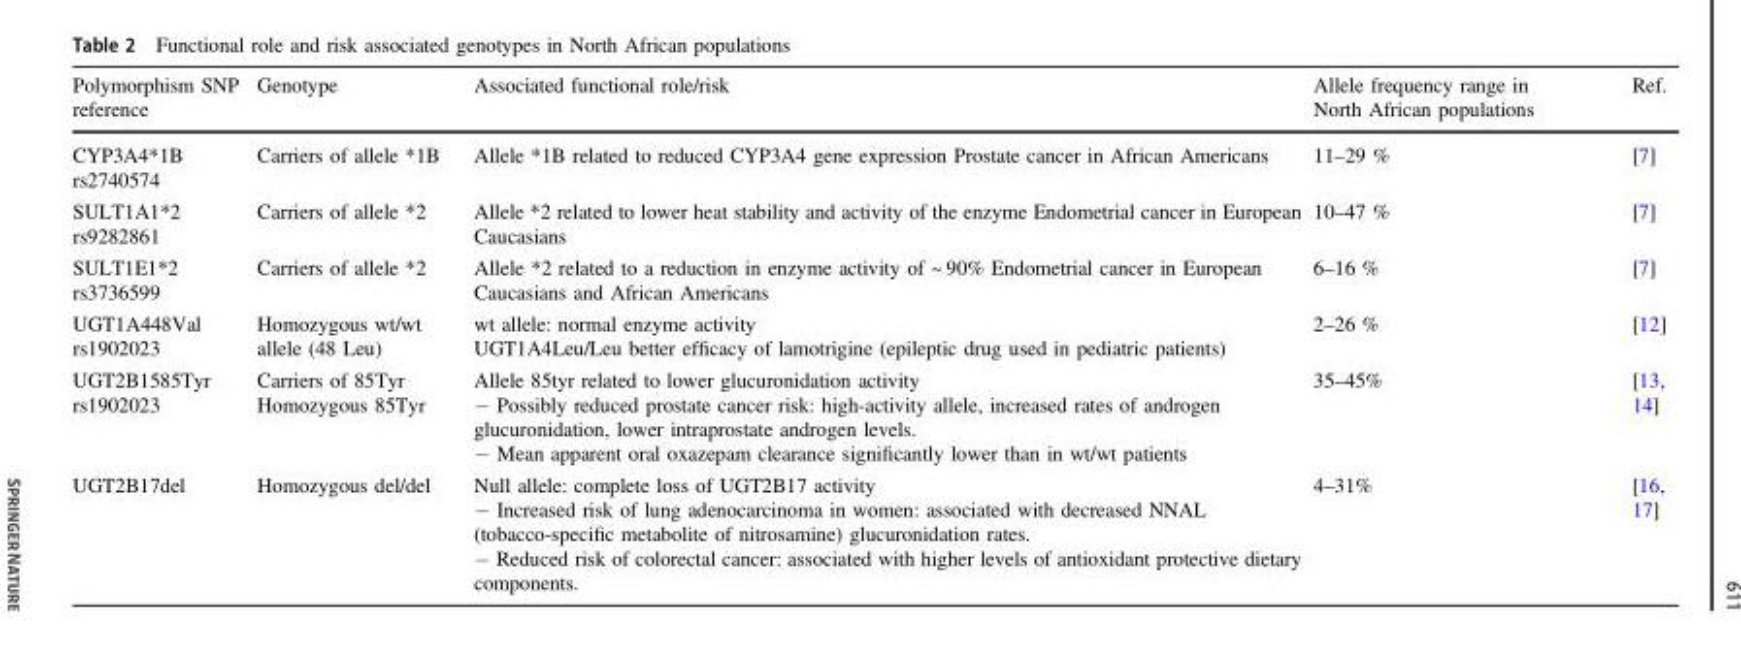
<table><thead><tr><td>Polymorphism SNP reference</td><td>Genotype</td><td>Associated functional role/risk</td><td>Allele frequency range in North African populations</td><td>Ref.</td></tr></thead><tbody><tr><td>CYP3A4*1B rs2740574</td><td>Carriers of allele *1B</td><td>Allele *1B related to reduced CYP3A4 gene expression Prostate cancer in African Americans</td><td>11–29 %</td><td>[7]</td></tr><tr><td>SULT1A1*2 rs9282861</td><td>Carriers of allele *2</td><td>Allele *2 related to lower heat stability and activity of the enzyme Endometrial cancer in European Caucasians</td><td>10–47 %</td><td>[7]</td></tr><tr><td>SULT1E1*2 rs3736599</td><td>Carriers of allele *2</td><td>Allele *2 related to a reduction in enzyme activity of ~ 90% Endometrial cancer in European Caucasians and African Americans</td><td>6–16 %</td><td>[7]</td></tr><tr><td>UGT1A448Val rs1902023</td><td>Homozygous wt/wt allele (48 Leu)</td><td>wt allele: normal enzyme activity UGT1A4Leu/Leu better efficacy of lamotrigine (epileptic drug used in pediatric patients)</td><td>2–26 %</td><td>[12]</td></tr><tr><td>UGT2B1585Tyr rs1902023</td><td>Carriers of 85Tyr Homozygous 85Tyr</td><td>Allele 85tyr related to lower glucuronidation activity − Possibly reduced prostate cancer risk: high-activity allele, increased rates of androgen glucuronidation, lower intraprostate androgen levels. − Mean apparent oral oxazepam clearance significantly lower than in wt/wt patients</td><td>35–45%</td><td>[13, 14]</td></tr><tr><td>UGT2B17del</td><td>Homozygous del/del</td><td>Null allele: complete loss of UGT2B17 activity − Increased risk of lung adenocarcinoma in women: associated with decreased NNAL (tobacco-specific metabolite of nitrosamine) glucuronidation rates. − Reduced risk of colorectal cancer: associated with higher levels of antioxidant protective dietary components.</td><td>4–31%</td><td>[16, 17]</td></tr></tbody></table>